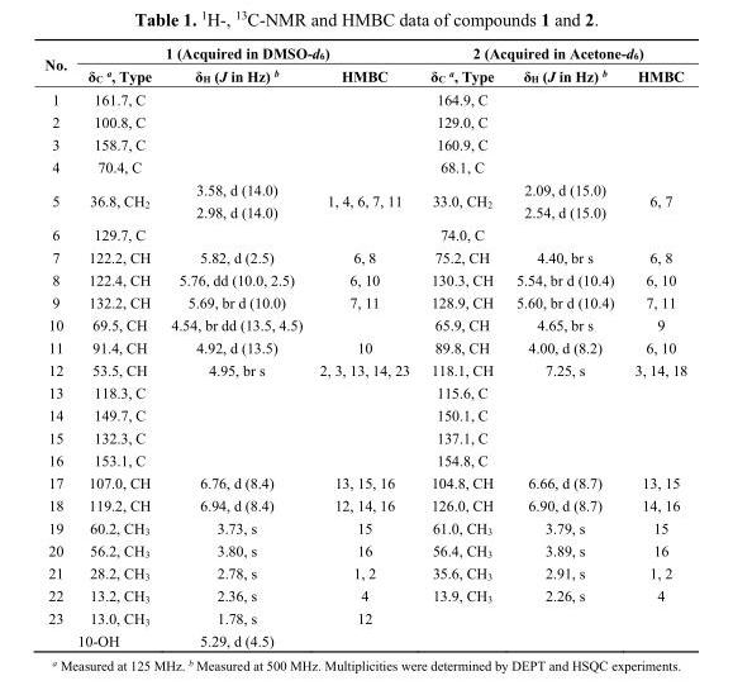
<table><thead><tr><td rowspan="2">No.</td><td colspan="3">1 (Acquired in DMSO-d<sub>6</sub>)</td><td colspan="3">2 (Acquired in Acetone-d<sub>6</sub>)</td></tr><tr><td>δ<sub>C</sub> <sup>a</sup>, Type</td><td>δ<sub>H</sub> (J in Hz) <sup>b</sup></td><td>HMBC</td><td>δ<sub>C</sub> <sup>a</sup>, Type</td><td>δ<sub>H</sub> (J in Hz) <sup>b</sup></td><td>HMBC</td></tr></thead><tbody><tr><td>1</td><td>161.7, C</td><td></td><td></td><td>164.9, C</td><td></td><td></td></tr><tr><td>2</td><td>100.8, C</td><td></td><td></td><td>129.0, C</td><td></td><td></td></tr><tr><td>3</td><td>158.7, C</td><td></td><td></td><td>160.9, C</td><td></td><td></td></tr><tr><td>4</td><td>70.4, C</td><td></td><td></td><td>68.1, C</td><td></td><td></td></tr><tr><td rowspan="2">5</td><td rowspan="2">36.8, CH<sub>2</sub></td><td>3.58, d (14.0)</td><td rowspan="2">1, 4, 6, 7, 11</td><td rowspan="2">33.0, CH<sub>2</sub></td><td>2.09, d (15.0)</td><td rowspan="2">6, 7</td></tr><tr><td>2.98, d (14.0)</td><td>2.54, d (15.0)</td></tr><tr><td>6</td><td>129.7, C</td><td></td><td></td><td>74.0, C</td><td></td><td></td></tr><tr><td>7</td><td>122.2, CH</td><td>5.82, d (2.5)</td><td>6, 8</td><td>75.2, CH</td><td>4.40, br s</td><td>6, 8</td></tr><tr><td>8</td><td>122.4, CH</td><td>5.76, dd (10.0, 2.5)</td><td>6, 10</td><td>130.3, CH</td><td>5.54, br d (10.4)</td><td>6, 10</td></tr><tr><td>9</td><td>132.2, CH</td><td>5.69, br d (10.0)</td><td>7, 11</td><td>128.9, CH</td><td>5.60, br d (10.4)</td><td>7, 11</td></tr><tr><td>10</td><td>69.5, CH</td><td>4.54, br dd (13.5, 4.5)</td><td></td><td>65.9, CH</td><td>4.65, br s</td><td>9</td></tr><tr><td>11</td><td>91.4, CH</td><td>4.92, d (13.5)</td><td>10</td><td>89.8, CH</td><td>4.00, d (8.2)</td><td>6, 10</td></tr><tr><td>12</td><td>53.5, CH</td><td>4.95, br s</td><td>2, 3, 13, 14, 23</td><td>118.1, CH</td><td>7.25, s</td><td>3, 14, 18</td></tr><tr><td>13</td><td>118.3, C</td><td></td><td></td><td>115.6, C</td><td></td><td></td></tr><tr><td>14</td><td>149.7, C</td><td></td><td></td><td>150.1, C</td><td></td><td></td></tr><tr><td>15</td><td>132.3, C</td><td></td><td></td><td>137.1, C</td><td></td><td></td></tr><tr><td>16</td><td>153.1, C</td><td></td><td></td><td>154.8, C</td><td></td><td></td></tr><tr><td>17</td><td>107.0, CH</td><td>6.76, d (8.4)</td><td>13, 15, 16</td><td>104.8, CH</td><td>6.66, d (8.7)</td><td>13, 15</td></tr><tr><td>18</td><td>119.2, CH</td><td>6.94, d (8.4)</td><td>12, 14, 16</td><td>126.0, CH</td><td>6.90, d (8.7)</td><td>14, 16</td></tr><tr><td>19</td><td>60.2, CH<sub>3</sub></td><td>3.73, s</td><td>15</td><td>61.0, CH<sub>3</sub></td><td>3.79, s</td><td>15</td></tr><tr><td>20</td><td>56.2, CH<sub>3</sub></td><td>3.80, s</td><td>16</td><td>56.4, CH<sub>3</sub></td><td>3.89, s</td><td>16</td></tr><tr><td>21</td><td>28.2, CH<sub>3</sub></td><td>2.78, s</td><td>1, 2</td><td>35.6, CH<sub>3</sub></td><td>2.91, s</td><td>1, 2</td></tr><tr><td>22</td><td>13.2, CH<sub>3</sub></td><td>2.36, s</td><td>4</td><td>13.9, CH<sub>3</sub></td><td>2.26, s</td><td>4</td></tr><tr><td>23</td><td>13.0, CH<sub>3</sub></td><td>1.78, s</td><td>12</td><td></td><td></td><td></td></tr><tr><td colspan="2">10-OH</td><td>5.29, d (4.5)</td><td></td><td></td><td></td><td></td></tr></tbody></table>